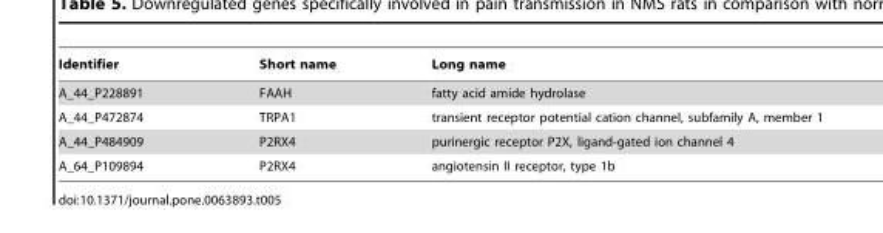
<table><thead><tr><td>Identifier</td><td>Short name</td><td>Long name</td></tr></thead><tbody><tr><td>A_44_P228891</td><td>FAAH</td><td>fatty acid amide hydrolase</td></tr><tr><td>A_44_P472874</td><td>TRPA1</td><td>transient receptor potential cation channel, subfamily A, member 1</td></tr><tr><td>A_44_P484909</td><td>P2RX4</td><td>purinergic receptor P2X, ligand-gated ion channel 4</td></tr><tr><td>A_64_P109894</td><td>P2RX4</td><td>angiotensin II receptor, type 1b</td></tr></tbody></table>